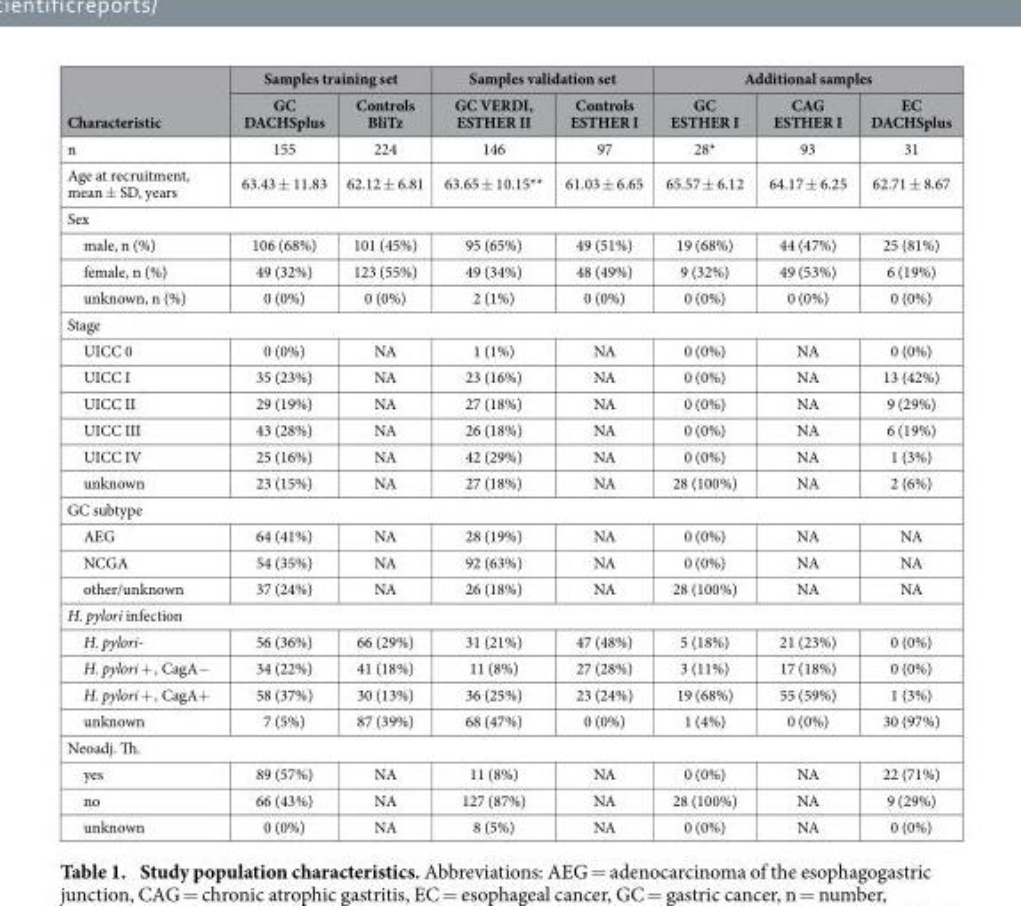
<table><thead><tr><td rowspan="2">Characteristic</td><td colspan="2">Samples training set</td><td colspan="2">Samples validation set</td><td colspan="3">Additional samples</td></tr><tr><td>GC DACHSplus</td><td>Controls BliTz</td><td>GC VERDI, ESTHER II</td><td>Controls ESTHER I</td><td>GC ESTHER I</td><td>CAG ESTHER I</td><td>EC DACHSplus</td></tr></thead><tbody><tr><td>n</td><td>155</td><td>224</td><td>146</td><td>97</td><td>28*</td><td>93</td><td>31</td></tr><tr><td>Age at recruitment, mean ± SD, years</td><td>63.43 ± 11.83</td><td>62.12 ± 6.81</td><td>63.65 ± 10.15**</td><td>61.03 ± 6.65</td><td>65.57 ± 6.12</td><td>64.17 ± 6.25</td><td>62.71 ± 8.67</td></tr><tr><td colspan="8">Sex</td></tr><tr><td>male, n (%)</td><td>106 (68%)</td><td>101 (45%)</td><td>95 (65%)</td><td>49 (51%)</td><td>19 (68%)</td><td>44 (47%)</td><td>25 (81%)</td></tr><tr><td>female, n (%)</td><td>49 (32%)</td><td>123 (55%)</td><td>49 (34%)</td><td>48 (49%)</td><td>9 (32%)</td><td>49 (53%)</td><td>6 (19%)</td></tr><tr><td>unknown, n (%)</td><td>0 (0%)</td><td>0 (0%)</td><td>2 (1%)</td><td>0 (0%)</td><td>0 (0%)</td><td>0 (0%)</td><td>0 (0%)</td></tr><tr><td colspan="8">Stage</td></tr><tr><td>UICC 0</td><td>0 (0%)</td><td>NA</td><td>1 (1%)</td><td>NA</td><td>0 (0%)</td><td>NA</td><td>0 (0%)</td></tr><tr><td>UICC I</td><td>35 (23%)</td><td>NA</td><td>23 (16%)</td><td>NA</td><td>0 (0%)</td><td>NA</td><td>13 (42%)</td></tr><tr><td>UICC II</td><td>29 (19%)</td><td>NA</td><td>27 (18%)</td><td>NA</td><td>0 (0%)</td><td>NA</td><td>9 (29%)</td></tr><tr><td>UICC III</td><td>43 (28%)</td><td>NA</td><td>26 (18%)</td><td>NA</td><td>0 (0%)</td><td>NA</td><td>6 (19%)</td></tr><tr><td>UICC IV</td><td>25 (16%)</td><td>NA</td><td>42 (29%)</td><td>NA</td><td>0 (0%)</td><td>NA</td><td>1 (3%)</td></tr><tr><td>unknown</td><td>23 (15%)</td><td>NA</td><td>27 (18%)</td><td>NA</td><td>28 (100%)</td><td>NA</td><td>2 (6%)</td></tr><tr><td colspan="8">GC subtype</td></tr><tr><td>AEG</td><td>64 (41%)</td><td>NA</td><td>28 (19%)</td><td>NA</td><td>0 (0%)</td><td>NA</td><td>NA</td></tr><tr><td>NCGA</td><td>54 (35%)</td><td>NA</td><td>92 (63%)</td><td>NA</td><td>0 (0%)</td><td>NA</td><td>NA</td></tr><tr><td>other/unknown</td><td>37 (24%)</td><td>NA</td><td>26 (18%)</td><td>NA</td><td>28 (100%)</td><td>NA</td><td>NA</td></tr><tr><td colspan="8">H. pylori infection</td></tr><tr><td>H. pylori-</td><td>56 (36%)</td><td>66 (29%)</td><td>31 (21%)</td><td>47 (48%)</td><td>5 (18%)</td><td>21 (23%)</td><td>0 (0%)</td></tr><tr><td>H. pylori + , CagA−</td><td>34 (22%)</td><td>41 (18%)</td><td>11 (8%)</td><td>27 (28%)</td><td>3 (11%)</td><td>17 (18%)</td><td>0 (0%)</td></tr><tr><td>H. pylori + , CagA+</td><td>58 (37%)</td><td>30 (13%)</td><td>36 (25%)</td><td>23 (24%)</td><td>19 (68%)</td><td>55 (59%)</td><td>1 (3%)</td></tr><tr><td>unknown</td><td>7 (5%)</td><td>87 (39%)</td><td>68 (47%)</td><td>0 (0%)</td><td>1 (4%)</td><td>0 (0%)</td><td>30 (97%)</td></tr><tr><td colspan="8">Neoadj. Th.</td></tr><tr><td>yes</td><td>89 (57%)</td><td>NA</td><td>11 (8%)</td><td>NA</td><td>0 (0%)</td><td>NA</td><td>22 (71%)</td></tr><tr><td>no</td><td>66 (43%)</td><td>NA</td><td>127 (87%)</td><td>NA</td><td>28 (100%)</td><td>NA</td><td>9 (29%)</td></tr><tr><td>unknown</td><td>0 (0%)</td><td>NA</td><td>8 (5%)</td><td>NA</td><td>0 (0%)</td><td>NA</td><td>0 (0%)</td></tr></tbody></table>